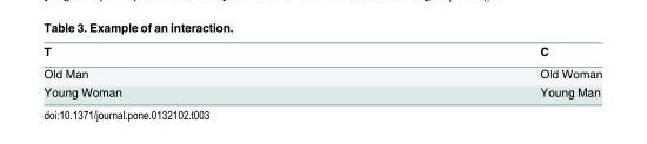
<table><thead><tr><td>T</td><td>C</td></tr></thead><tbody><tr><td>Old Man</td><td>Old Woman</td></tr><tr><td>Young Woman</td><td>Young Man</td></tr></tbody></table>